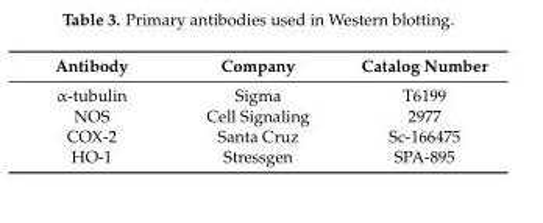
<table><thead><tr><td>Antibody</td><td>Company</td><td>Catalog Number</td></tr></thead><tbody><tr><td>α-tubulin</td><td>Sigma</td><td>T6199</td></tr><tr><td>NOS</td><td>Cell Signaling</td><td>2977</td></tr><tr><td>COX-2</td><td>Santa Cruz</td><td>Sc-166475</td></tr><tr><td>HO-1</td><td>Stressgen</td><td>SPA-895</td></tr></tbody></table>